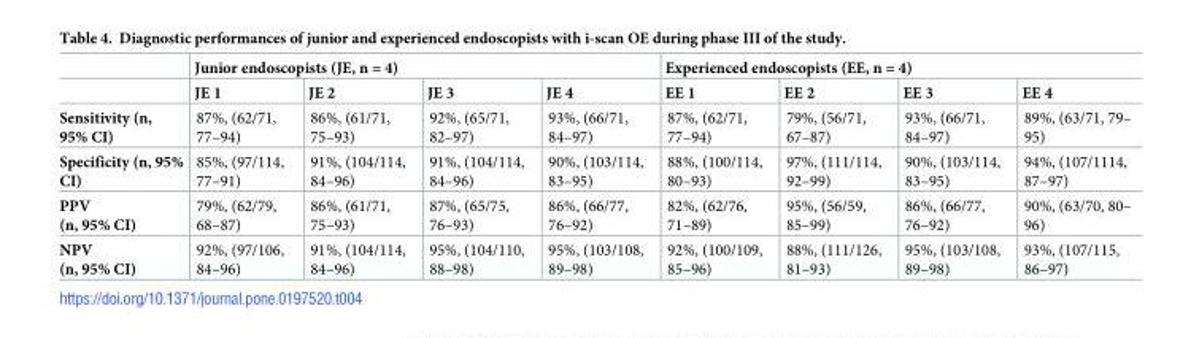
<table><thead><tr><td rowspan="2"></td><td colspan="4">Junior endoscopists (JE, n = 4)</td><td colspan="4">Experienced endoscopists (EE, n = 4)</td></tr><tr><td>JE 1</td><td>JE 2</td><td>JE 3</td><td>JE 4</td><td>EE 1</td><td>EE 2</td><td>EE 3</td><td>EE 4</td></tr></thead><tbody><tr><td>Sensitivity (n, 95% CI)</td><td>87%, (62/71, 77–94)</td><td>86%, (61/71, 75–93)</td><td>92%, (65/71, 82–97)</td><td>93%, (66/71, 84–97)</td><td>87%, (62/71, 77–94)</td><td>79%, (56/71, 67–87)</td><td>93%, (66/71, 84–97)</td><td>89%, (63/71, 79– 95)</td></tr><tr><td>Specificity (n, 95% CI)</td><td>85%, (97/114, 77–91)</td><td>91%, (104/114, 84–96)</td><td>91%, (104/114, 84–96)</td><td>90%, (103/114, 83–95)</td><td>88%, (100/114, 80–93)</td><td>97%, (111/114, 92–99)</td><td>90%, (103/114, 83–95)</td><td>94%, (107/1114, 87–97)</td></tr><tr><td>PPV (n, 95% CI)</td><td>79%, (62/79, 68–87)</td><td>86%, (61/71, 75–93)</td><td>87%, (65/75, 76–93)</td><td>86%, (66/77, 76–92)</td><td>82%, (62/76, 71–89)</td><td>95%, (56/59, 85–99)</td><td>86%, (66/77, 76–92)</td><td>90%, (63/70, 80– 96)</td></tr><tr><td>NPV (n, 95% CI)</td><td>92%, (97/106, 84–96)</td><td>91%, (104/114, 84–96)</td><td>95%, (104/110, 88–98)</td><td>95%, (103/108, 89–98)</td><td>92%, (100/109, 85–96)</td><td>88%, (111/126, 81–93)</td><td>95%, (103/108, 89–98)</td><td>93%, (107/115, 86–97)</td></tr></tbody></table>